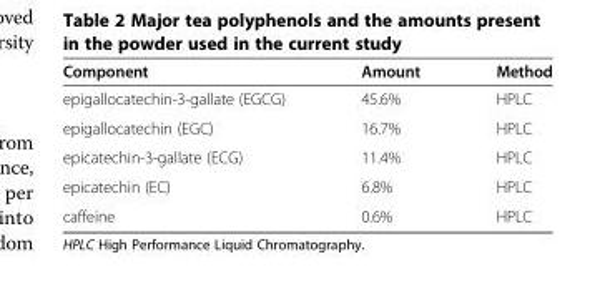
<table><thead><tr><td>Component</td><td>Amount</td><td>Method</td></tr></thead><tbody><tr><td>epigallocatechin-3-gallate (EGCG)</td><td>45.6%</td><td>HPLC</td></tr><tr><td>epigallocatechin (EGC)</td><td>16.7%</td><td>HPLC</td></tr><tr><td>epicatechin-3-gallate (ECG)</td><td>11.4%</td><td>HPLC</td></tr><tr><td>epicatechin (EC)</td><td>6.8%</td><td>HPLC</td></tr><tr><td>caffeine</td><td>0.6%</td><td>HPLC</td></tr></tbody></table>